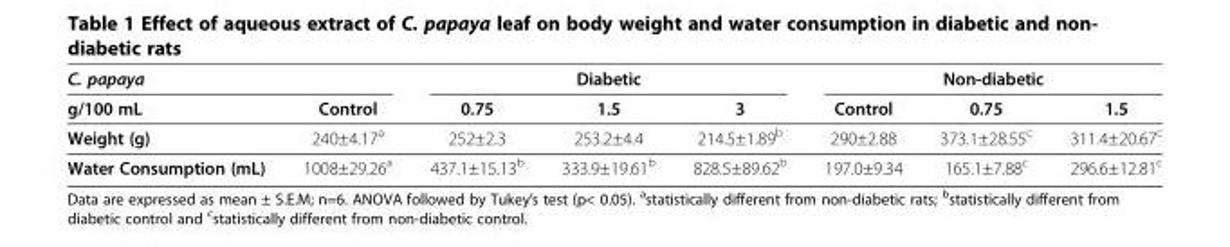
<table><thead><tr><td colspan="2">C. papaya</td><td colspan="3">Diabetic</td><td colspan="3">Non-diabetic</td></tr><tr><td>g/100 mL</td><td>Control</td><td>0.75</td><td>1.5</td><td>3</td><td>Control</td><td>0.75</td><td>1.5</td></tr></thead><tbody><tr><td>Weight (g)</td><td>240±4.17<sup>a</sup></td><td>252±2.3</td><td>253.2±4.4</td><td>214.5±1.89<sup>b</sup></td><td>290±2.88</td><td>373.1±28.55<sup>c</sup></td><td>311.4±20.67<sup>c</sup></td></tr><tr><td>Water Consumption (mL)</td><td>1008±29.26<sup>a</sup></td><td>437.1±15.13<sup>b</sup></td><td>333.9±19.61<sup>b</sup></td><td>828.5±89.62<sup>b</sup></td><td>197.0±9.34</td><td>165.1±7.88<sup>c</sup></td><td>296.6±12.81<sup>c</sup></td></tr></tbody></table>